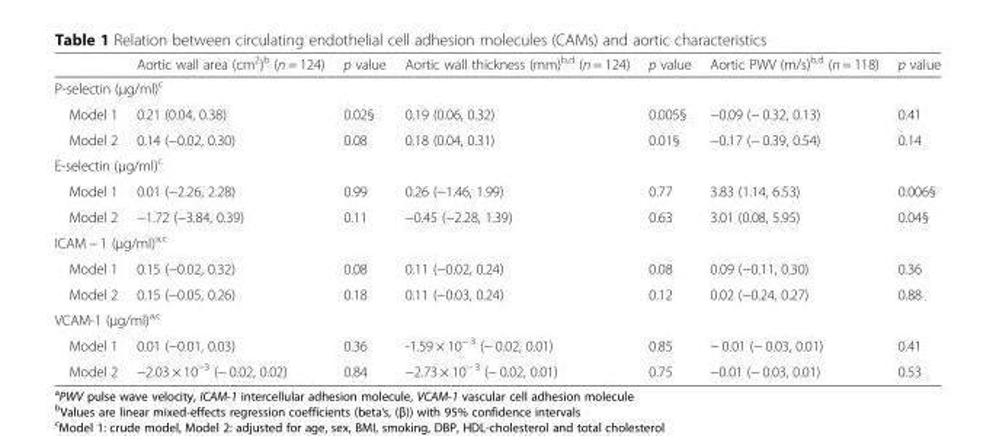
<table><thead><tr><td></td><td>Aortic wall area (cm<sup>2</sup>)<sup>b</sup> (n = 124)</td><td>p value</td><td>Aortic wall thickness (mm)<sup>b,d</sup> (n = 124)</td><td>p value</td><td>Aortic PWV (m/s)<sup>b,d</sup> (n = 118)</td><td>p value</td></tr></thead><tbody><tr><td colspan="7">P-selectin (μg/ml)<sup>c</sup></td></tr><tr><td>Model 1</td><td>0.21 (0.04, 0.38)</td><td>0.02§</td><td>0.19 (0.06, 0.32)</td><td>0.005§</td><td>−0.09 (− 0.32, 0.13)</td><td>0.41</td></tr><tr><td>Model 2</td><td>0.14 (−0.02, 0.30)</td><td>0.08</td><td>0.18 (0.04, 0.31)</td><td>0.01§</td><td>−0.17 (− 0.39, 0.54)</td><td>0.14</td></tr><tr><td colspan="7">E-selectin (μg/ml)<sup>c</sup></td></tr><tr><td>Model 1</td><td>0.01 (−2.26, 2.28)</td><td>0.99</td><td>0.26 (−1.46, 1.99)</td><td>0.77</td><td>3.83 (1.14, 6.53)</td><td>0.006§</td></tr><tr><td>Model 2</td><td>−1.72 (−3.84, 0.39)</td><td>0.11</td><td>−0.45 (−2.28, 1.39)</td><td>0.63</td><td>3.01 (0.08, 5.95)</td><td>0.04§</td></tr><tr><td colspan="7">ICAM − 1 (μg/ml)<sup>a,c</sup></td></tr><tr><td>Model 1</td><td>0.15 (−0.02, 0.32)</td><td>0.08</td><td>0.11 (−0.02, 0.24)</td><td>0.08</td><td>0.09 (−0.11, 0.30)</td><td>0.36</td></tr><tr><td>Model 2</td><td>0.15 (−0.05, 0.26)</td><td>0.18</td><td>0.11 (−0.03, 0.24)</td><td>0.12</td><td>0.02 (−0.24, 0.27)</td><td>0.88</td></tr><tr><td colspan="7">VCAM-1 (μg/ml)<sup>a,c</sup></td></tr><tr><td>Model 1</td><td>0.01 (−0.01, 0.03)</td><td>0.36</td><td>-1.59 × 10<sup>− 3</sup> (− 0.02, 0.01)</td><td>0.85</td><td>− 0.01 (− 0.03, 0.01)</td><td>0.41</td></tr><tr><td>Model 2</td><td>−2.03 × 10<sup>−3</sup> (− 0.02, 0.02)</td><td>0.84</td><td>−2.73 × 10<sup>− 3</sup> (− 0.02, 0.01)</td><td>0.75</td><td>−0.01 (− 0.03, 0.01)</td><td>0.53</td></tr></tbody></table>